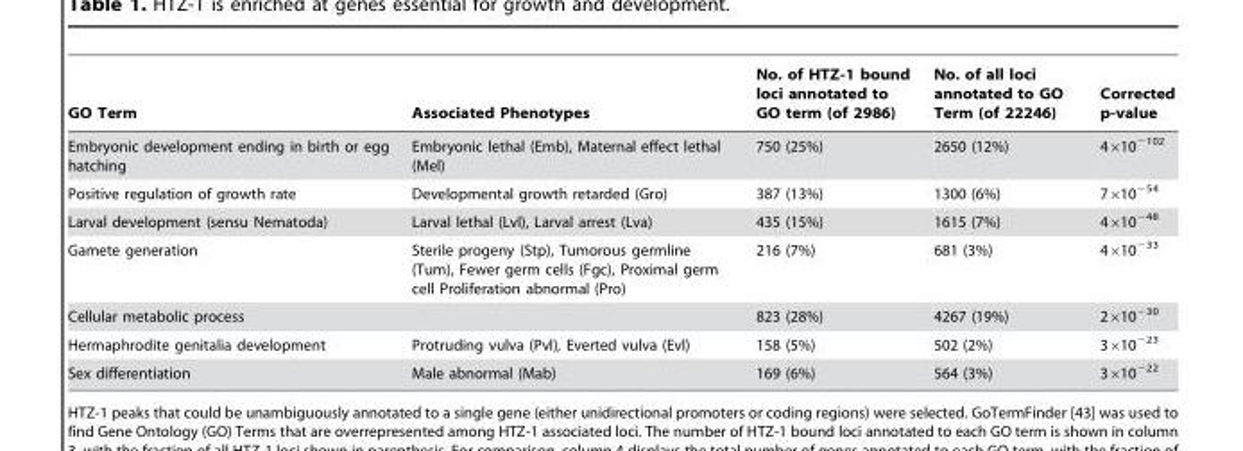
<table><thead><tr><td>GO Term</td><td>Associated Phenotypes</td><td>No. of HTZ-1 bound loci annotated to GO term (of 2986)</td><td>No. of all loci annotated to GO Term (of 22246)</td><td>Corrected p-value</td></tr></thead><tbody><tr><td>Embryonic development ending in birth or egg hatching</td><td>Embryonic lethal (Emb), Maternal effect lethal (Mel)</td><td>750 (25%)</td><td>2650 (12%)</td><td>4×10<sup>−102</sup></td></tr><tr><td>Positive regulation of growth rate</td><td>Developmental growth retarded (Gro)</td><td>387 (13%)</td><td>1300 (6%)</td><td>7×10<sup>−54</sup></td></tr><tr><td>Larval development (sensu Nematoda)</td><td>Larval lethal (Lvl), Larval arrest (Lva)</td><td>435 (15%)</td><td>1615 (7%)</td><td>4×10<sup>−48</sup></td></tr><tr><td>Gamete generation</td><td>Sterile progeny (Stp), Tumorous germline (Tum), Fewer germ cells (Fgc), Proximal germ cell Proliferation abnormal (Pro)</td><td>216 (7%)</td><td>681 (3%)</td><td>4×10<sup>−33</sup></td></tr><tr><td>Cellular metabolic process</td><td></td><td>823 (28%)</td><td>4267 (19%)</td><td>2×10<sup>−30</sup></td></tr><tr><td>Hermaphrodite genitalia development</td><td>Protruding vulva (Pvl), Everted vulva (Evl)</td><td>158 (5%)</td><td>502 (2%)</td><td>3×10<sup>−23</sup></td></tr><tr><td>Sex differentiation</td><td>Male abnormal (Mab)</td><td>169 (6%)</td><td>564 (3%)</td><td>3×10<sup>−22</sup></td></tr></tbody></table>